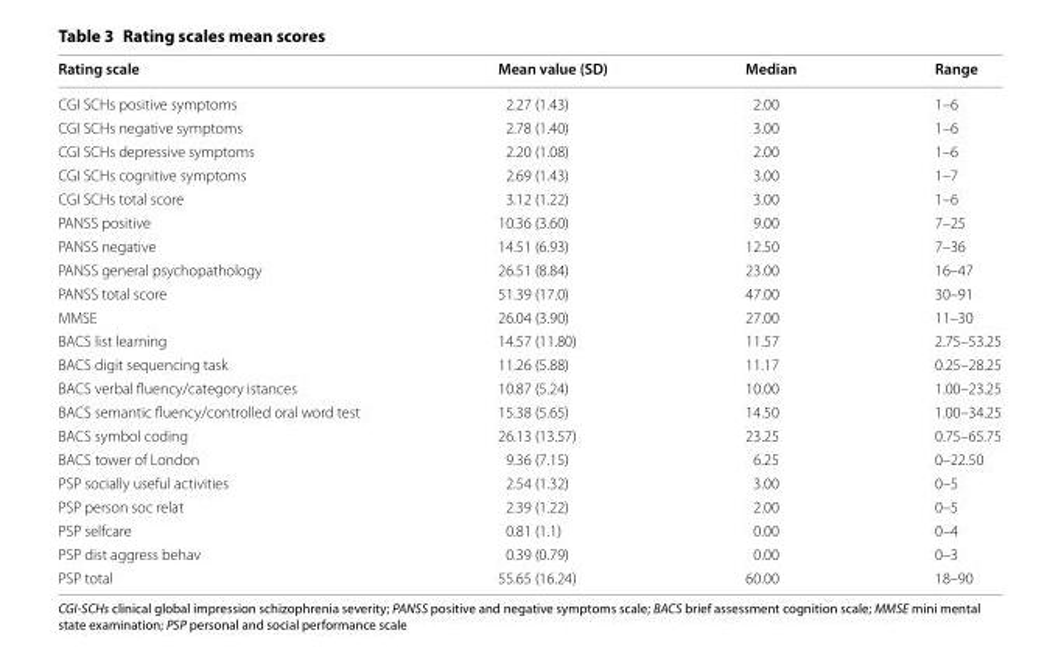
<table><thead><tr><td>Rating scale</td><td>Mean value (SD)</td><td>Median</td><td>Range</td></tr></thead><tbody><tr><td>CGI SCHs positive symptoms</td><td>2.27 (1.43)</td><td>2.00</td><td>1–6</td></tr><tr><td>CGI SCHs negative symptoms</td><td>2.78 (1.40)</td><td>3.00</td><td>1–6</td></tr><tr><td>CGI SCHs depressive symptoms</td><td>2.20 (1.08)</td><td>2.00</td><td>1–6</td></tr><tr><td>CGI SCHs cognitive symptoms</td><td>2.69 (1.43)</td><td>3.00</td><td>1–7</td></tr><tr><td>CGI SCHs total score</td><td>3.12 (1.22)</td><td>3.00</td><td>1–6</td></tr><tr><td>PANSS positive</td><td>10.36 (3.60)</td><td>9.00</td><td>7–25</td></tr><tr><td>PANSS negative</td><td>14.51 (6.93)</td><td>12.50</td><td>7–36</td></tr><tr><td>PANSS general psychopathology</td><td>26.51 (8.84)</td><td>23.00</td><td>16–47</td></tr><tr><td>PANSS total score</td><td>51.39 (17.0)</td><td>47.00</td><td>30–91</td></tr><tr><td>MMSE</td><td>26.04 (3.90)</td><td>27.00</td><td>11–30</td></tr><tr><td>BACS list learning</td><td>14.57 (11.80)</td><td>11.57</td><td>2.75–53.25</td></tr><tr><td>BACS digit sequencing task</td><td>11.26 (5.88)</td><td>11.17</td><td>0.25–28.25</td></tr><tr><td>BACS verbal fluency/category istances</td><td>10.87 (5.24)</td><td>10.00</td><td>1.00–23.25</td></tr><tr><td>BACS semantic fluency/controlled oral word test</td><td>15.38 (5.65)</td><td>14.50</td><td>1.00–34.25</td></tr><tr><td>BACS symbol coding</td><td>26.13 (13.57)</td><td>23.25</td><td>0.75–65.75</td></tr><tr><td>BACS tower of London</td><td>9.36 (7.15)</td><td>6.25</td><td>0–22.50</td></tr><tr><td>PSP socially useful activities</td><td>2.54 (1.32)</td><td>3.00</td><td>0–5</td></tr><tr><td>PSP person soc relat</td><td>2.39 (1.22)</td><td>2.00</td><td>0–5</td></tr><tr><td>PSP selfcare</td><td>0.81 (1.1)</td><td>0.00</td><td>0–4</td></tr><tr><td>PSP dist aggress behav</td><td>0.39 (0.79)</td><td>0.00</td><td>0–3</td></tr><tr><td>PSP total</td><td>55.65 (16.24)</td><td>60.00</td><td>18–90</td></tr></tbody></table>